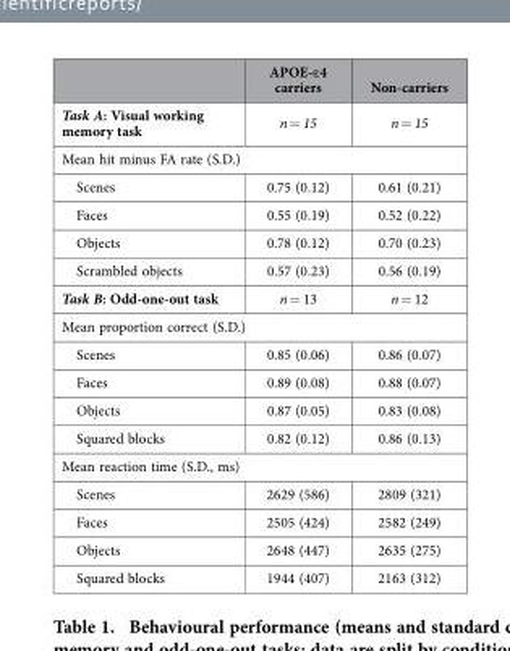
<table><thead><tr><td></td><td>APOE-ε4 carriers</td><td>Non-carriers</td></tr></thead><tbody><tr><td>Task A: Visual working memory task</td><td>n = 15</td><td>n = 15</td></tr><tr><td colspan="3">Mean hit minus FA rate (S.D.)</td></tr><tr><td>Scenes</td><td>0.75 (0.12)</td><td>0.61 (0.21)</td></tr><tr><td>Faces</td><td>0.55 (0.19)</td><td>0.52 (0.22)</td></tr><tr><td>Objects</td><td>0.78 (0.12)</td><td>0.70 (0.23)</td></tr><tr><td>Scrambled objects</td><td>0.57 (0.23)</td><td>0.56 (0.19)</td></tr><tr><td>Task B: Odd-one-out task</td><td>n = 13</td><td>n = 12</td></tr><tr><td colspan="3">Mean proportion correct (S.D.)</td></tr><tr><td>Scenes</td><td>0.85 (0.06)</td><td>0.86 (0.07)</td></tr><tr><td>Faces</td><td>0.89 (0.08)</td><td>0.88 (0.07)</td></tr><tr><td>Objects</td><td>0.87 (0.05)</td><td>0.83 (0.08)</td></tr><tr><td>Squared blocks</td><td>0.82 (0.12)</td><td>0.86 (0.13)</td></tr><tr><td colspan="3">Mean reaction time (S.D., ms)</td></tr><tr><td>Scenes</td><td>2629 (586)</td><td>2809 (321)</td></tr><tr><td>Faces</td><td>2505 (424)</td><td>2582 (249)</td></tr><tr><td>Objects</td><td>2648 (447)</td><td>2635 (275)</td></tr><tr><td>Squared blocks</td><td>1944 (407)</td><td>2163 (312)</td></tr></tbody></table>